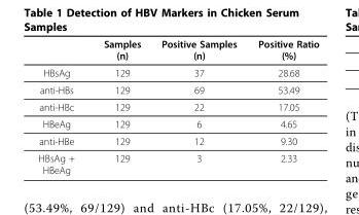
<table><thead><tr><td></td><td>Samples (n)</td><td>Positive Samples (n)</td><td>Positive Ratio (%)</td></tr></thead><tbody><tr><td>HBsAg</td><td>129</td><td>37</td><td>28.68</td></tr><tr><td>anti-HBs</td><td>129</td><td>69</td><td>53.49</td></tr><tr><td>anti-HBc</td><td>129</td><td>22</td><td>17.05</td></tr><tr><td>HBeAg</td><td>129</td><td>6</td><td>4.65</td></tr><tr><td>anti-HBe</td><td>129</td><td>12</td><td>9.30</td></tr><tr><td>HBsAg + HBeAg</td><td>129</td><td>3</td><td>2.33</td></tr></tbody></table>